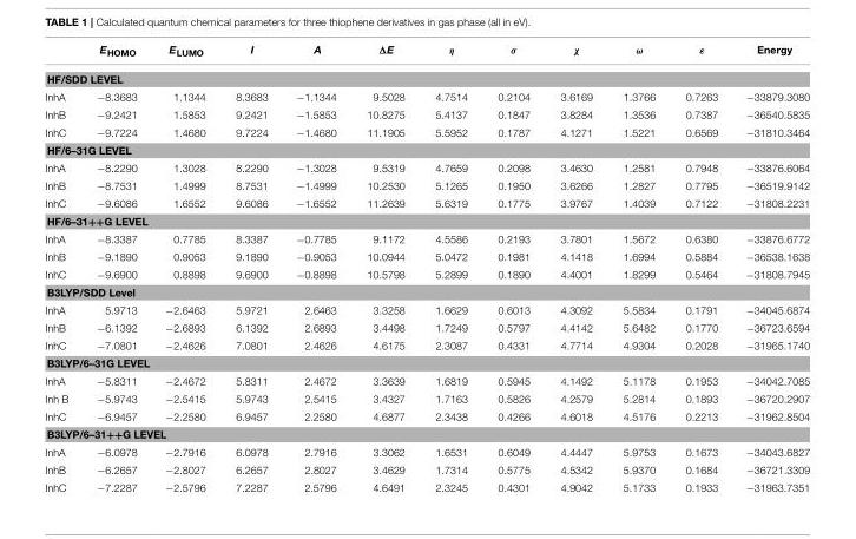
<table><thead><tr><td></td><td>E<sub>HOMO</sub></td><td>E<sub>LUMO</sub></td><td>I</td><td>A</td><td>ΔE</td><td>η</td><td>σ</td><td>χ</td><td>ω</td><td>ε</td><td>Energy</td></tr></thead><tbody><tr><td colspan="12">HF/SDD LEVEL</td></tr><tr><td>InhA</td><td>−8.3683</td><td>1.1344</td><td>8.3683</td><td>−1.1344</td><td>9.5028</td><td>4.7514</td><td>0.2104</td><td>3.6169</td><td>1.3766</td><td>0.7263</td><td>−33879.3080</td></tr><tr><td>InhB</td><td>−9.2421</td><td>1.5853</td><td>9.2421</td><td>−1.5853</td><td>10.8275</td><td>5.4137</td><td>0.1847</td><td>3.8284</td><td>1.3536</td><td>0.7387</td><td>−36540.5835</td></tr><tr><td>InhC</td><td>−9.7224</td><td>1.4680</td><td>9.7224</td><td>−1.4680</td><td>11.1905</td><td>5.5952</td><td>0.1787</td><td>4.1271</td><td>1.5221</td><td>0.6569</td><td>−31810.3464</td></tr><tr><td colspan="12">HF/6–31G LEVEL</td></tr><tr><td>InhA</td><td>−8.2290</td><td>1.3028</td><td>8.2290</td><td>−1.3028</td><td>9.5319</td><td>4.7659</td><td>0.2098</td><td>3.4630</td><td>1.2581</td><td>0.7948</td><td>−33876.6064</td></tr><tr><td>InhB</td><td>−8.7531</td><td>1.4999</td><td>8.7531</td><td>−1.4999</td><td>10.2530</td><td>5.1265</td><td>0.1950</td><td>3.6266</td><td>1.2827</td><td>0.7795</td><td>−36519.9142</td></tr><tr><td>InhC</td><td>−9.6086</td><td>1.6552</td><td>9.6086</td><td>−1.6552</td><td>11.2639</td><td>5.6319</td><td>0.1775</td><td>3.9767</td><td>1.4039</td><td>0.7122</td><td>−31808.2231</td></tr><tr><td colspan="12">HF/6–31++G LEVEL</td></tr><tr><td>InhA</td><td>−8.3387</td><td>0.7785</td><td>8.3387</td><td>−0.7785</td><td>9.1172</td><td>4.5586</td><td>0.2193</td><td>3.7801</td><td>1.5672</td><td>0.6380</td><td>−33876.6772</td></tr><tr><td>InhB</td><td>−9.1890</td><td>0.9053</td><td>9.1890</td><td>−0.9053</td><td>10.0944</td><td>5.0472</td><td>0.1981</td><td>4.1418</td><td>1.6994</td><td>0.5884</td><td>−36538.1638</td></tr><tr><td>InhC</td><td>−9.6900</td><td>0.8898</td><td>9.6900</td><td>−0.8898</td><td>10.5798</td><td>5.2899</td><td>0.1890</td><td>4.4001</td><td>1.8299</td><td>0.5464</td><td>−31808.7945</td></tr><tr><td colspan="12">B3LYP/SDD Level</td></tr><tr><td>InhA</td><td>5.9713</td><td>−2.6463</td><td>5.9721</td><td>2.6463</td><td>3.3258</td><td>1.6629</td><td>0.6013</td><td>4.3092</td><td>5.5834</td><td>0.1791</td><td>−34045.6874</td></tr><tr><td>InhB</td><td>−6.1392</td><td>−2.6893</td><td>6.1392</td><td>2.6893</td><td>3.4498</td><td>1.7249</td><td>0.5797</td><td>4.4142</td><td>5.6482</td><td>0.1770</td><td>−36723.6594</td></tr><tr><td>InhC</td><td>−7.0801</td><td>−2.4626</td><td>7.0801</td><td>2.4626</td><td>4.6175</td><td>2.3087</td><td>0.4331</td><td>4.7714</td><td>4.9304</td><td>0.2028</td><td>−31965.1740</td></tr><tr><td colspan="12">B3LYP/6–31G LEVEL</td></tr><tr><td>InhA</td><td>−5.8311</td><td>−2.4672</td><td>5.8311</td><td>2.4672</td><td>3.3639</td><td>1.6819</td><td>0.5945</td><td>4.1492</td><td>5.1178</td><td>0.1953</td><td>−34042.7085</td></tr><tr><td>Inh B</td><td>−5.9743</td><td>−2.5415</td><td>5.9743</td><td>2.5415</td><td>3.4327</td><td>1.7163</td><td>0.5826</td><td>4.2579</td><td>5.2814</td><td>0.1893</td><td>−36720.2907</td></tr><tr><td>InhC</td><td>−6.9457</td><td>−2.2580</td><td>6.9457</td><td>2.2580</td><td>4.6877</td><td>2.3438</td><td>0.4266</td><td>4.6018</td><td>4.5176</td><td>0.2213</td><td>−31962.8504</td></tr><tr><td colspan="12">B3LYP/6–31++G LEVEL</td></tr><tr><td>InhA</td><td>−6.0978</td><td>−2.7916</td><td>6.0978</td><td>2.7916</td><td>3.3062</td><td>1.6531</td><td>0.6049</td><td>4.4447</td><td>5.9753</td><td>0.1673</td><td>−34043.6827</td></tr><tr><td>InhB</td><td>−6.2657</td><td>−2.8027</td><td>6.2657</td><td>2.8027</td><td>3.4629</td><td>1.7314</td><td>0.5775</td><td>4.5342</td><td>5.9370</td><td>0.1684</td><td>−36721.3309</td></tr><tr><td>InhC</td><td>−7.2287</td><td>−2.5796</td><td>7.2287</td><td>2.5796</td><td>4.6491</td><td>2.3245</td><td>0.4301</td><td>4.9042</td><td>5.1733</td><td>0.1933</td><td>−31963.7351</td></tr></tbody></table>